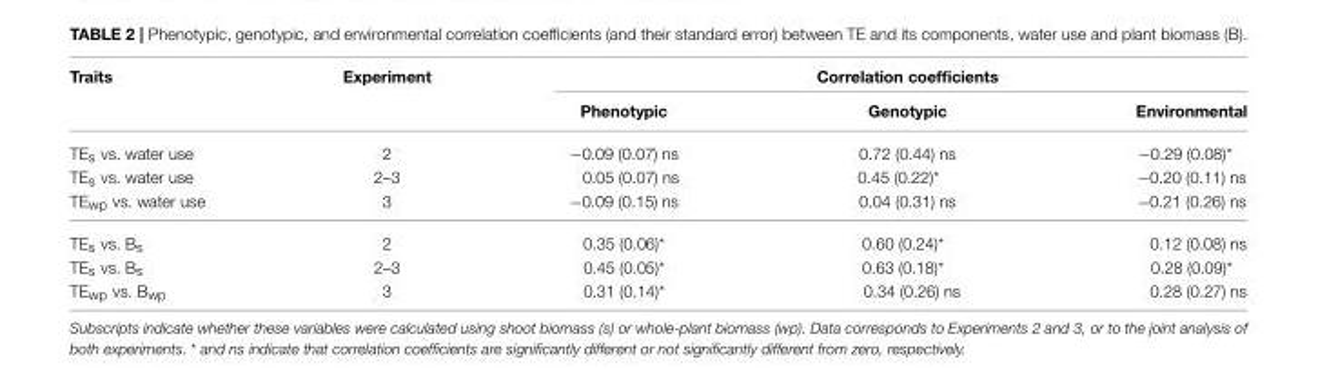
<table><thead><tr><td rowspan="2">Traits</td><td rowspan="2">Experiment</td><td colspan="3">Correlation coefficients</td></tr><tr><td>Phenotypic</td><td>Genotypic</td><td>Environmental</td></tr></thead><tbody><tr><td>TE<sub>s</sub> vs. water use</td><td>2</td><td>−0.09 (0.07) ns</td><td>0.72 (0.44) ns</td><td>−0.29 (0.08)*</td></tr><tr><td>TE<sub>s</sub> vs. water use</td><td>2–3</td><td>0.05 (0.07) ns</td><td>0.45 (0.22)*</td><td>−0.20 (0.11) ns</td></tr><tr><td>TE<sub>wp</sub> vs. water use</td><td>3</td><td>−0.09 (0.15) ns</td><td>0.04 (0.31) ns</td><td>−0.21 (0.26) ns</td></tr><tr><td>TE<sub>s</sub> vs. B<sub>s</sub></td><td>2</td><td>0.35 (0.06)*</td><td>0.60 (0.24)*</td><td>0.12 (0.08) ns</td></tr><tr><td>TE<sub>s</sub> vs. B<sub>s</sub></td><td>2–3</td><td>0.45 (0.05)*</td><td>0.63 (0.18)*</td><td>0.28 (0.09)*</td></tr><tr><td>TE<sub>wp</sub> vs. B<sub>wp</sub></td><td>3</td><td>0.31 (0.14)*</td><td>0.34 (0.26) ns</td><td>0.28 (0.27) ns</td></tr></tbody></table>